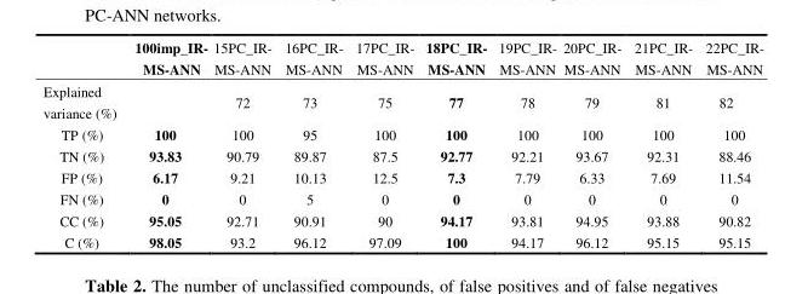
<table><thead><tr><td></td><td>100imp_IR- MS-ANN</td><td>15PC_IR- MS-ANN</td><td>16PC_IR- MS-ANN</td><td>17PC_IR- MS-ANN</td><td>18PC_IR- MS-ANN</td><td>19PC_IR- MS-ANN</td><td>20PC_IR- MS-ANN</td><td>21PC_IR- MS-ANN</td><td>22PC_IR- MS-ANN</td></tr></thead><tbody><tr><td>Explained variance (%)</td><td></td><td>72</td><td>73</td><td>75</td><td>77</td><td>78</td><td>79</td><td>81</td><td>82</td></tr><tr><td>TP (%)</td><td>100</td><td>100</td><td>95</td><td>100</td><td>100</td><td>100</td><td>100</td><td>100</td><td>100</td></tr><tr><td>TN (%)</td><td>93.83</td><td>90.79</td><td>89.87</td><td>87.5</td><td>92.77</td><td>92.21</td><td>93.67</td><td>92.31</td><td>88.46</td></tr><tr><td>FP (%)</td><td>6.17</td><td>9.21</td><td>10.13</td><td>12.5</td><td>7.3</td><td>7.79</td><td>6.33</td><td>7.69</td><td>11.54</td></tr><tr><td>FN (%)</td><td>0</td><td>0</td><td>5</td><td>0</td><td>0</td><td>0</td><td>0</td><td>0</td><td>0</td></tr><tr><td>CC (%)</td><td>95.05</td><td>92.71</td><td>90.91</td><td>90</td><td>94.17</td><td>93.81</td><td>94.95</td><td>93.88</td><td>90.82</td></tr><tr><td>C (%)</td><td>98.05</td><td>93.2</td><td>96.12</td><td>97.09</td><td>100</td><td>94.17</td><td>96.12</td><td>95.15</td><td>95.15</td></tr></tbody></table>